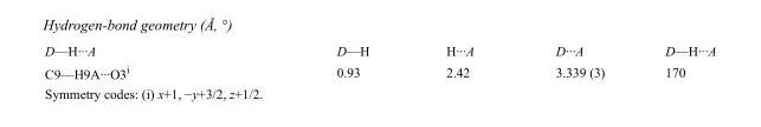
<table><tbody><tr><td>D—H···A</td><td>D—H</td><td>H···A</td><td>D···A</td><td>D—H···A</td></tr><tr><td>C9—H9A···O3<sup>i</sup></td><td>0.93</td><td>2.42</td><td>3.339 (3)</td><td>170</td></tr></tbody></table>